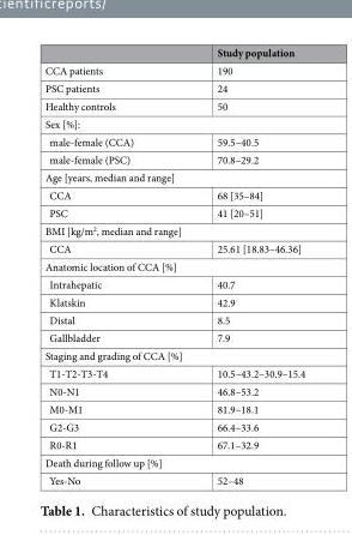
<table><thead><tr><td></td><td>Study population</td></tr></thead><tbody><tr><td>CCA patients</td><td>190</td></tr><tr><td>PSC patients</td><td>24</td></tr><tr><td>Healthy controls</td><td>50</td></tr><tr><td colspan="2">Sex [%]:</td></tr><tr><td>male-female (CCA)</td><td>59.5–40.5</td></tr><tr><td>male-female (PSC)</td><td>70.8–29.2</td></tr><tr><td colspan="2">Age [years, median and range]</td></tr><tr><td>CCA</td><td>68 [35–84]</td></tr><tr><td>PSC</td><td>41 [20–51]</td></tr><tr><td colspan="2">BMI [kg/m<sup>2</sup>, median and range]</td></tr><tr><td>CCA</td><td>25.61 [18.83–46.36]</td></tr><tr><td colspan="2">Anatomic location of CCA [%]</td></tr><tr><td>Intrahepatic</td><td>40.7</td></tr><tr><td>Klatskin</td><td>42.9</td></tr><tr><td>Distal</td><td>8.5</td></tr><tr><td>Gallbladder</td><td>7.9</td></tr><tr><td colspan="2">Staging and grading of CCA [%]</td></tr><tr><td>T1-T2-T3-T4</td><td>10.5–43.2–30.9–15.4</td></tr><tr><td>N0-N1</td><td>46.8–53.2</td></tr><tr><td>M0-M1</td><td>81.9–18.1</td></tr><tr><td>G2-G3</td><td>66.4–33.6</td></tr><tr><td>R0-R1</td><td>67.1–32.9</td></tr><tr><td colspan="2">Death during follow up [%]</td></tr><tr><td>Yes-No</td><td>52–48</td></tr></tbody></table>